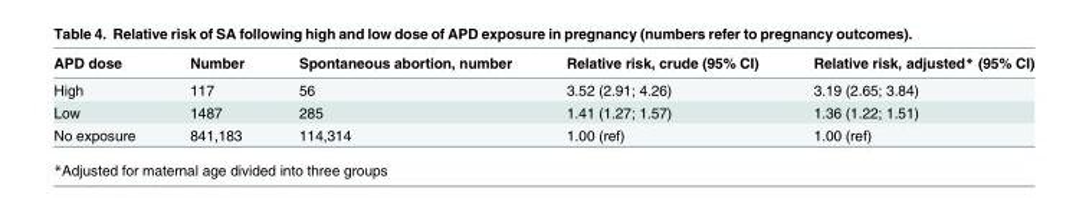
<table><thead><tr><td>APD dose</td><td>Number</td><td>Spontaneous abortion, number</td><td>Relative risk, crude (95% CI)</td><td>Relative risk, adjusted* (95% CI)</td></tr></thead><tbody><tr><td>High</td><td>117</td><td>56</td><td>3.52 (2.91; 4.26)</td><td>3.19 (2.65; 3.84)</td></tr><tr><td>Low</td><td>1487</td><td>285</td><td>1.41 (1.27; 1.57)</td><td>1.36 (1.22; 1.51)</td></tr><tr><td>No exposure</td><td>841,183</td><td>114,314</td><td>1.00 (ref)</td><td>1.00 (ref)</td></tr></tbody></table>